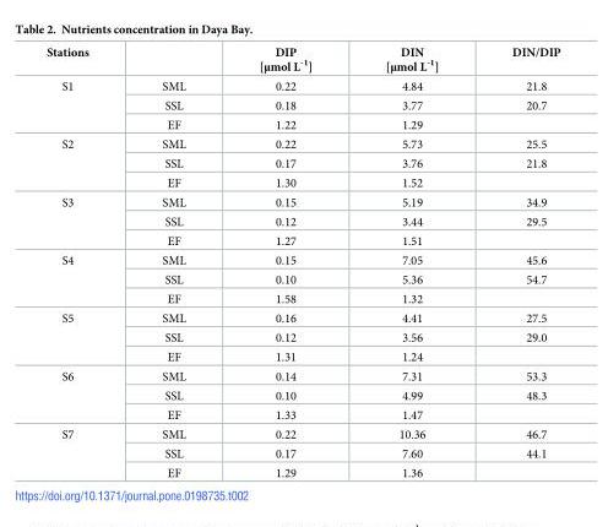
<table><thead><tr><td>Stations</td><td></td><td>DIP [μmol L<sup>-1</sup>]</td><td>DIN [μmol L<sup>-1</sup>]</td><td>DIN/DIP</td></tr></thead><tbody><tr><td rowspan="3">S1</td><td>SML</td><td>0.22</td><td>4.84</td><td>21.8</td></tr><tr><td>SSL</td><td>0.18</td><td>3.77</td><td>20.7</td></tr><tr><td>EF</td><td>1.22</td><td>1.29</td><td></td></tr><tr><td rowspan="3">S2</td><td>SML</td><td>0.22</td><td>5.73</td><td>25.5</td></tr><tr><td>SSL</td><td>0.17</td><td>3.76</td><td>21.8</td></tr><tr><td>EF</td><td>1.30</td><td>1.52</td><td></td></tr><tr><td rowspan="3">S3</td><td>SML</td><td>0.15</td><td>5.19</td><td>34.9</td></tr><tr><td>SSL</td><td>0.12</td><td>3.44</td><td>29.5</td></tr><tr><td>EF</td><td>1.27</td><td>1.51</td><td></td></tr><tr><td rowspan="3">S4</td><td>SML</td><td>0.15</td><td>7.05</td><td>45.6</td></tr><tr><td>SSL</td><td>0.10</td><td>5.36</td><td>54.7</td></tr><tr><td>EF</td><td>1.58</td><td>1.32</td><td></td></tr><tr><td rowspan="3">S5</td><td>SML</td><td>0.16</td><td>4.41</td><td>27.5</td></tr><tr><td>SSL</td><td>0.12</td><td>3.56</td><td>29.0</td></tr><tr><td>EF</td><td>1.31</td><td>1.24</td><td></td></tr><tr><td rowspan="3">S6</td><td>SML</td><td>0.14</td><td>7.31</td><td>53.3</td></tr><tr><td>SSL</td><td>0.10</td><td>4.99</td><td>48.3</td></tr><tr><td>EF</td><td>1.33</td><td>1.47</td><td></td></tr><tr><td rowspan="3">S7</td><td>SML</td><td>0.22</td><td>10.36</td><td>46.7</td></tr><tr><td>SSL</td><td>0.17</td><td>7.60</td><td>44.1</td></tr><tr><td>EF</td><td>1.29</td><td>1.36</td><td></td></tr></tbody></table>